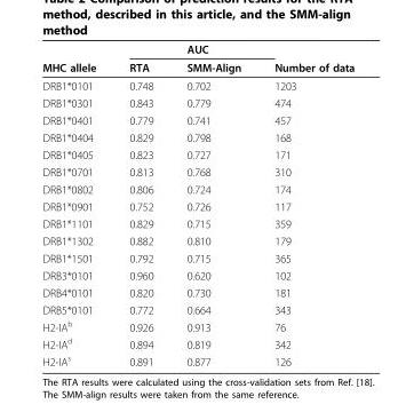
<table><thead><tr><td rowspan="2">MHC allele</td><td colspan="2">AUC</td><td rowspan="2">Number of data</td></tr><tr><td>RTA</td><td>SMM-Align</td></tr></thead><tbody><tr><td>DRB1*0101</td><td>0.748</td><td>0.702</td><td>1203</td></tr><tr><td>DRB1*0301</td><td>0.843</td><td>0.779</td><td>474</td></tr><tr><td>DRB1*0401</td><td>0.779</td><td>0.741</td><td>457</td></tr><tr><td>DRB1*0404</td><td>0.829</td><td>0.798</td><td>168</td></tr><tr><td>DRB1*0405</td><td>0.823</td><td>0.727</td><td>171</td></tr><tr><td>DRB1*0701</td><td>0.813</td><td>0.768</td><td>310</td></tr><tr><td>DRB1*0802</td><td>0.806</td><td>0.724</td><td>174</td></tr><tr><td>DRB1*0901</td><td>0.752</td><td>0.726</td><td>117</td></tr><tr><td>DRB1*1101</td><td>0.829</td><td>0.715</td><td>359</td></tr><tr><td>DRB1*1302</td><td>0.882</td><td>0.810</td><td>179</td></tr><tr><td>DRB1*1501</td><td>0.792</td><td>0.715</td><td>365</td></tr><tr><td>DRB3*0101</td><td>0.960</td><td>0.620</td><td>102</td></tr><tr><td>DRB4*0101</td><td>0.820</td><td>0.730</td><td>181</td></tr><tr><td>DRB5*0101</td><td>0.772</td><td>0.664</td><td>343</td></tr><tr><td>H2-IA<sup>b</sup></td><td>0.926</td><td>0.913</td><td>76</td></tr><tr><td>H2-IA<sup>d</sup></td><td>0.894</td><td>0.819</td><td>342</td></tr><tr><td>H2-IA<sup>s</sup></td><td>0.891</td><td>0.877</td><td>126</td></tr></tbody></table>